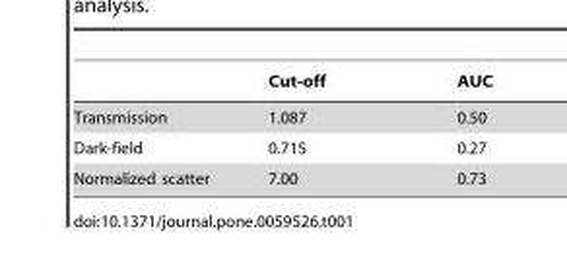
<table><thead><tr><td></td><td>Cut-off</td><td>AUC</td></tr></thead><tbody><tr><td>Transmission</td><td>1.087</td><td>0.50</td></tr><tr><td>Dark-field</td><td>0.715</td><td>0.27</td></tr><tr><td>Normalized scatter</td><td>7.00</td><td>0.73</td></tr></tbody></table>